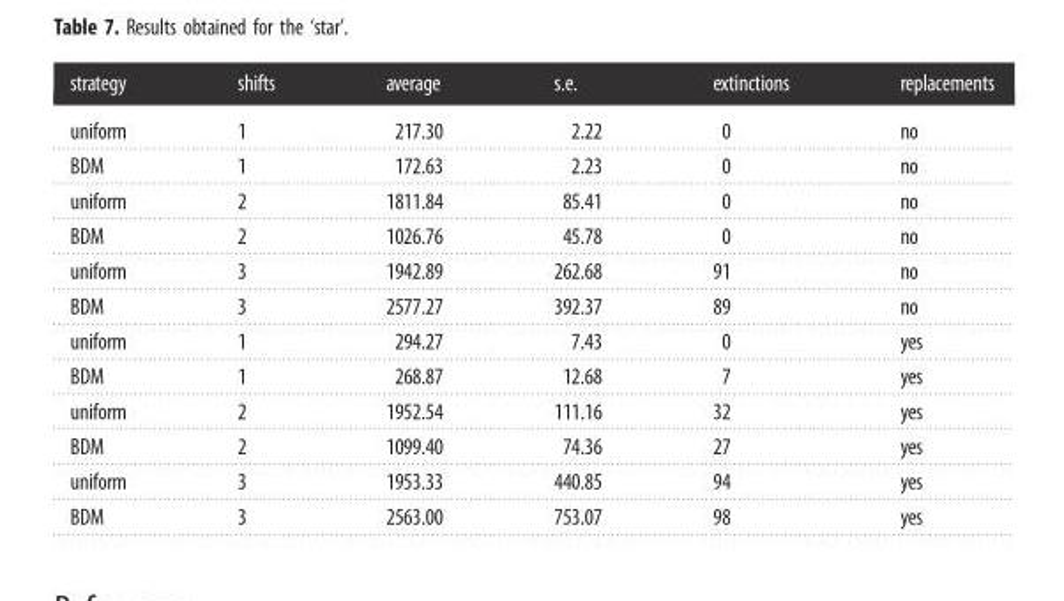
<table><thead><tr><td>strategy</td><td>shifts</td><td>average</td><td>s.e.</td><td>extinctions</td><td>replacements</td></tr></thead><tbody><tr><td>uniform</td><td>1</td><td>217.30</td><td>2.22</td><td>0</td><td>no</td></tr><tr><td>BDM</td><td>1</td><td>172.63</td><td>2.23</td><td>0</td><td>no</td></tr><tr><td>uniform</td><td>2</td><td>1811.84</td><td>85.41</td><td>0</td><td>no</td></tr><tr><td>BDM</td><td>2</td><td>1026.76</td><td>45.78</td><td>0</td><td>no</td></tr><tr><td>uniform</td><td>3</td><td>1942.89</td><td>262.68</td><td>91</td><td>no</td></tr><tr><td>BDM</td><td>3</td><td>2577.27</td><td>392.37</td><td>89</td><td>no</td></tr><tr><td>uniform</td><td>1</td><td>294.27</td><td>7.43</td><td>0</td><td>yes</td></tr><tr><td>BDM</td><td>1</td><td>268.87</td><td>12.68</td><td>7</td><td>yes</td></tr><tr><td>uniform</td><td>2</td><td>1952.54</td><td>111.16</td><td>32</td><td>yes</td></tr><tr><td>BDM</td><td>2</td><td>1099.40</td><td>74.36</td><td>27</td><td>yes</td></tr><tr><td>uniform</td><td>3</td><td>1953.33</td><td>440.85</td><td>94</td><td>yes</td></tr><tr><td>BDM</td><td>3</td><td>2563.00</td><td>753.07</td><td>98</td><td>yes</td></tr></tbody></table>